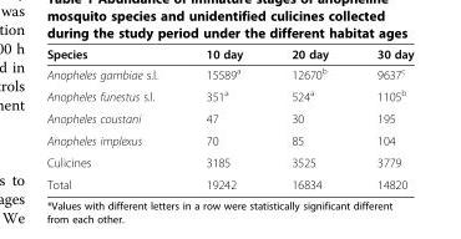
<table><thead><tr><td>Species</td><td>10 day</td><td>20 day</td><td>30 day</td></tr></thead><tbody><tr><td>Anopheles gambiae s.l.</td><td>15589<sup>a</sup></td><td>12670<sup>b</sup></td><td>9637<sup>c</sup></td></tr><tr><td>Anopheles funestus s.l.</td><td>351<sup>a</sup></td><td>524<sup>a</sup></td><td>1105<sup>b</sup></td></tr><tr><td>Anopheles coustani</td><td>47</td><td>30</td><td>195</td></tr><tr><td>Anopheles implexus</td><td>70</td><td>85</td><td>104</td></tr><tr><td>Culicines</td><td>3185</td><td>3525</td><td>3779</td></tr><tr><td>Total</td><td>19242</td><td>16834</td><td>14820</td></tr></tbody></table>